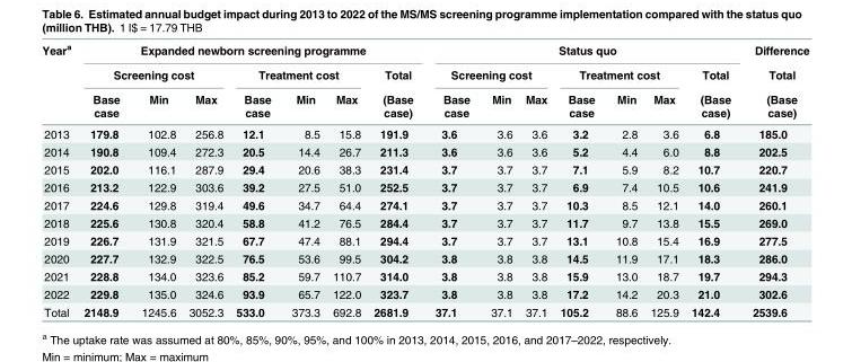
<table><thead><tr><td rowspan="3">Year<sup>a</sup></td><td colspan="7">Expanded newborn screening programme</td><td colspan="7">Status quo</td><td rowspan="3">Difference Total (Base case)</td></tr><tr><td colspan="3">Screening cost</td><td colspan="3">Treatment cost</td><td rowspan="2">Total (Base case)</td><td colspan="3">Screening cost</td><td colspan="3">Treatment cost</td><td rowspan="2">Total (Base case)</td></tr><tr><td>Base case</td><td>Min</td><td>Max</td><td>Base case</td><td>Min</td><td>Max</td><td>Base case</td><td>Min</td><td>Max</td><td>Base case</td><td>Min</td><td>Max</td></tr></thead><tbody><tr><td>2013</td><td>179.8</td><td>102.8</td><td>256.8</td><td>12.1</td><td>8.5</td><td>15.8</td><td>191.9</td><td>3.6</td><td>3.6</td><td>3.6</td><td>3.2</td><td>2.8</td><td>3.6</td><td>6.8</td><td>185.0</td></tr><tr><td>2014</td><td>190.8</td><td>109.4</td><td>272.3</td><td>20.5</td><td>14.4</td><td>26.7</td><td>211.3</td><td>3.6</td><td>3.6</td><td>3.6</td><td>5.2</td><td>4.4</td><td>6.0</td><td>8.8</td><td>202.5</td></tr><tr><td>2015</td><td>202.0</td><td>116.1</td><td>287.9</td><td>29.4</td><td>20.6</td><td>38.3</td><td>231.4</td><td>3.7</td><td>3.7</td><td>3.7</td><td>7.1</td><td>5.9</td><td>8.2</td><td>10.7</td><td>220.7</td></tr><tr><td>2016</td><td>213.2</td><td>122.9</td><td>303.6</td><td>39.2</td><td>27.5</td><td>51.0</td><td>252.5</td><td>3.7</td><td>3.7</td><td>3.7</td><td>6.9</td><td>7.4</td><td>10.5</td><td>10.6</td><td>241.9</td></tr><tr><td>2017</td><td>224.6</td><td>129.8</td><td>319.4</td><td>49.6</td><td>34.7</td><td>64.4</td><td>274.1</td><td>3.7</td><td>3.7</td><td>3.7</td><td>10.3</td><td>8.5</td><td>12.1</td><td>14.0</td><td>260.1</td></tr><tr><td>2018</td><td>225.6</td><td>130.8</td><td>320.4</td><td>58.8</td><td>41.2</td><td>76.5</td><td>284.4</td><td>3.7</td><td>3.7</td><td>3.7</td><td>11.7</td><td>9.7</td><td>13.8</td><td>15.5</td><td>269.0</td></tr><tr><td>2019</td><td>226.7</td><td>131.9</td><td>321.5</td><td>67.7</td><td>47.4</td><td>88.1</td><td>294.4</td><td>3.7</td><td>3.7</td><td>3.7</td><td>13.1</td><td>10.8</td><td>15.4</td><td>16.9</td><td>277.5</td></tr><tr><td>2020</td><td>227.7</td><td>132.9</td><td>322.5</td><td>76.5</td><td>53.6</td><td>99.5</td><td>304.2</td><td>3.8</td><td>3.8</td><td>3.8</td><td>14.5</td><td>11.9</td><td>17.1</td><td>18.3</td><td>286.0</td></tr><tr><td>2021</td><td>228.8</td><td>134.0</td><td>323.6</td><td>85.2</td><td>59.7</td><td>110.7</td><td>314.0</td><td>3.8</td><td>3.8</td><td>3.8</td><td>15.9</td><td>13.0</td><td>18.7</td><td>19.7</td><td>294.3</td></tr><tr><td>2022</td><td>229.8</td><td>135.0</td><td>324.6</td><td>93.9</td><td>65.7</td><td>122.0</td><td>323.7</td><td>3.8</td><td>3.8</td><td>3.8</td><td>17.2</td><td>14.2</td><td>20.3</td><td>21.0</td><td>302.6</td></tr><tr><td>Total</td><td>2148.9</td><td>1245.6</td><td>3052.3</td><td>533.0</td><td>373.3</td><td>692.8</td><td>2681.9</td><td>37.1</td><td>37.1</td><td>37.1</td><td>105.2</td><td>88.6</td><td>125.9</td><td>142.4</td><td>2539.6</td></tr></tbody></table>